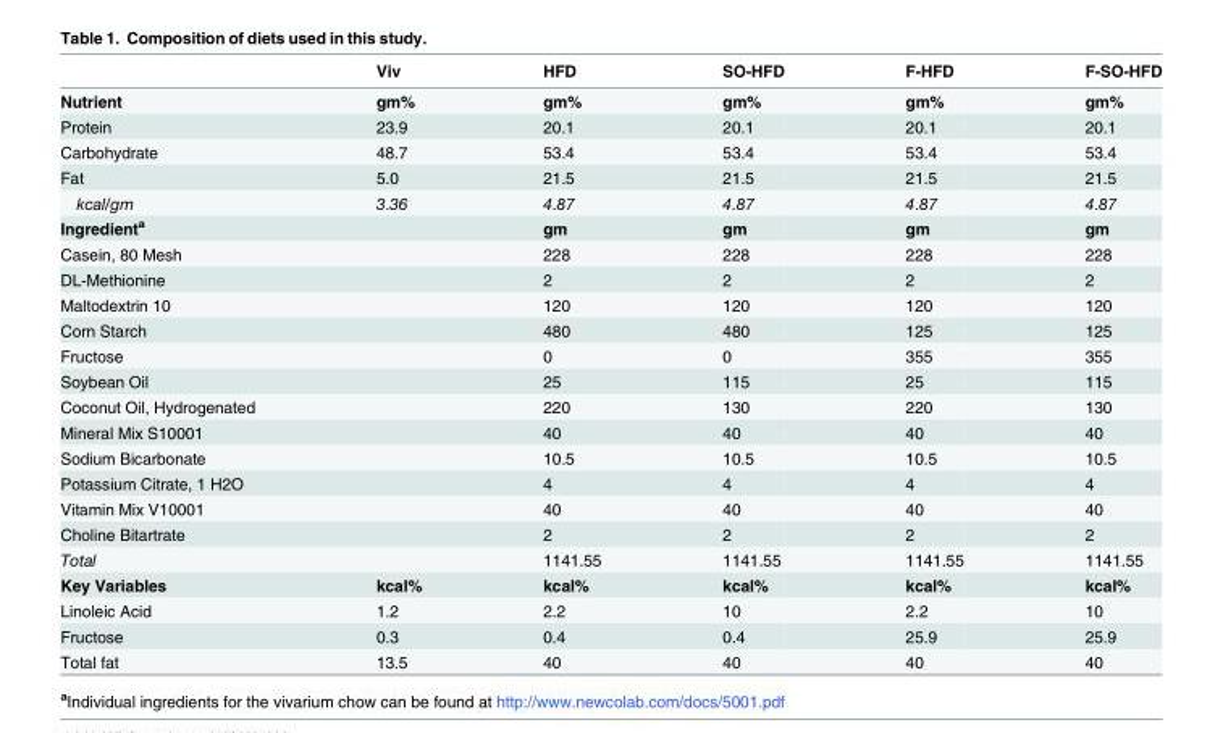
<table><thead><tr><td></td><td>Viv</td><td>HFD</td><td>SO-HFD</td><td>F-HFD</td><td>F-SO-HFD</td></tr></thead><tbody><tr><td>Nutrient</td><td>gm%</td><td>gm%</td><td>gm%</td><td>gm%</td><td>gm%</td></tr><tr><td>Protein</td><td>23.9</td><td>20.1</td><td>20.1</td><td>20.1</td><td>20.1</td></tr><tr><td>Carbohydrate</td><td>48.7</td><td>53.4</td><td>53.4</td><td>53.4</td><td>53.4</td></tr><tr><td>Fat</td><td>5.0</td><td>21.5</td><td>21.5</td><td>21.5</td><td>21.5</td></tr><tr><td>kcal/gm</td><td>3.36</td><td>4.87</td><td>4.87</td><td>4.87</td><td>4.87</td></tr><tr><td>Ingredient<sup>a</sup></td><td></td><td>gm</td><td>gm</td><td>gm</td><td>gm</td></tr><tr><td>Casein, 80 Mesh</td><td></td><td>228</td><td>228</td><td>228</td><td>228</td></tr><tr><td>DL-Methionine</td><td></td><td>2</td><td>2</td><td>2</td><td>2</td></tr><tr><td>Maltodextrin 10</td><td></td><td>120</td><td>120</td><td>120</td><td>120</td></tr><tr><td>Corn Starch</td><td></td><td>480</td><td>480</td><td>125</td><td>125</td></tr><tr><td>Fructose</td><td></td><td>0</td><td>0</td><td>355</td><td>355</td></tr><tr><td>Soybean Oil</td><td></td><td>25</td><td>115</td><td>25</td><td>115</td></tr><tr><td>Coconut Oil, Hydrogenated</td><td></td><td>220</td><td>130</td><td>220</td><td>130</td></tr><tr><td>Mineral Mix S10001</td><td></td><td>40</td><td>40</td><td>40</td><td>40</td></tr><tr><td>Sodium Bicarbonate</td><td></td><td>10.5</td><td>10.5</td><td>10.5</td><td>10.5</td></tr><tr><td>Potassium Citrate, 1 H2O</td><td></td><td>4</td><td>4</td><td>4</td><td>4</td></tr><tr><td>Vitamin Mix V10001</td><td></td><td>40</td><td>40</td><td>40</td><td>40</td></tr><tr><td>Choline Bitartrate</td><td></td><td>2</td><td>2</td><td>2</td><td>2</td></tr><tr><td>Total</td><td></td><td>1141.55</td><td>1141.55</td><td>1141.55</td><td>1141.55</td></tr><tr><td>Key Variables</td><td>kcal%</td><td>kcal%</td><td>kcal%</td><td>kcal%</td><td>kcal%</td></tr><tr><td>Linoleic Acid</td><td>1.2</td><td>2.2</td><td>10</td><td>2.2</td><td>10</td></tr><tr><td>Fructose</td><td>0.3</td><td>0.4</td><td>0.4</td><td>25.9</td><td>25.9</td></tr><tr><td>Total fat</td><td>13.5</td><td>40</td><td>40</td><td>40</td><td>40</td></tr></tbody></table>